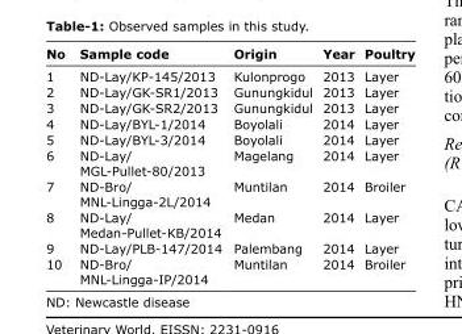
<table><thead><tr><td>No</td><td>Sample code</td><td>Origin</td><td>Year</td><td>Poultry</td></tr></thead><tbody><tr><td>1</td><td>ND-Lay/KP-145/2013</td><td>Kulonprogo</td><td>2013</td><td>Layer</td></tr><tr><td>2</td><td>ND-Lay/GK-SR1/2013</td><td>Gunungkidul</td><td>2013</td><td>Layer</td></tr><tr><td>3</td><td>ND-Lay/GK-SR2/2013</td><td>Gunungkidul</td><td>2013</td><td>Layer</td></tr><tr><td>4</td><td>ND-Lay/BYL-1/2014</td><td>Boyolali</td><td>2014</td><td>Layer</td></tr><tr><td>5</td><td>ND-Lay/BYL-3/2014</td><td>Boyolali</td><td>2014</td><td>Layer</td></tr><tr><td>6</td><td>ND-Lay/ MGL-Pullet-80/2013</td><td>Magelang</td><td>2014</td><td>Layer</td></tr><tr><td>7</td><td>ND-Bro/ MNL-Lingga-2L/2014</td><td>Muntilan</td><td>2014</td><td>Broiler</td></tr><tr><td>8</td><td>ND-Lay/ Medan-Pullet-KB/2014</td><td>Medan</td><td>2014</td><td>Layer</td></tr><tr><td>9</td><td>ND-Lay/PLB-147/2014</td><td>Palembang</td><td>2014</td><td>Layer</td></tr><tr><td>10</td><td>ND-Bro/ MNL-Lingga-IP/2014</td><td>Muntilan</td><td>2014</td><td>Broiler</td></tr></tbody></table>